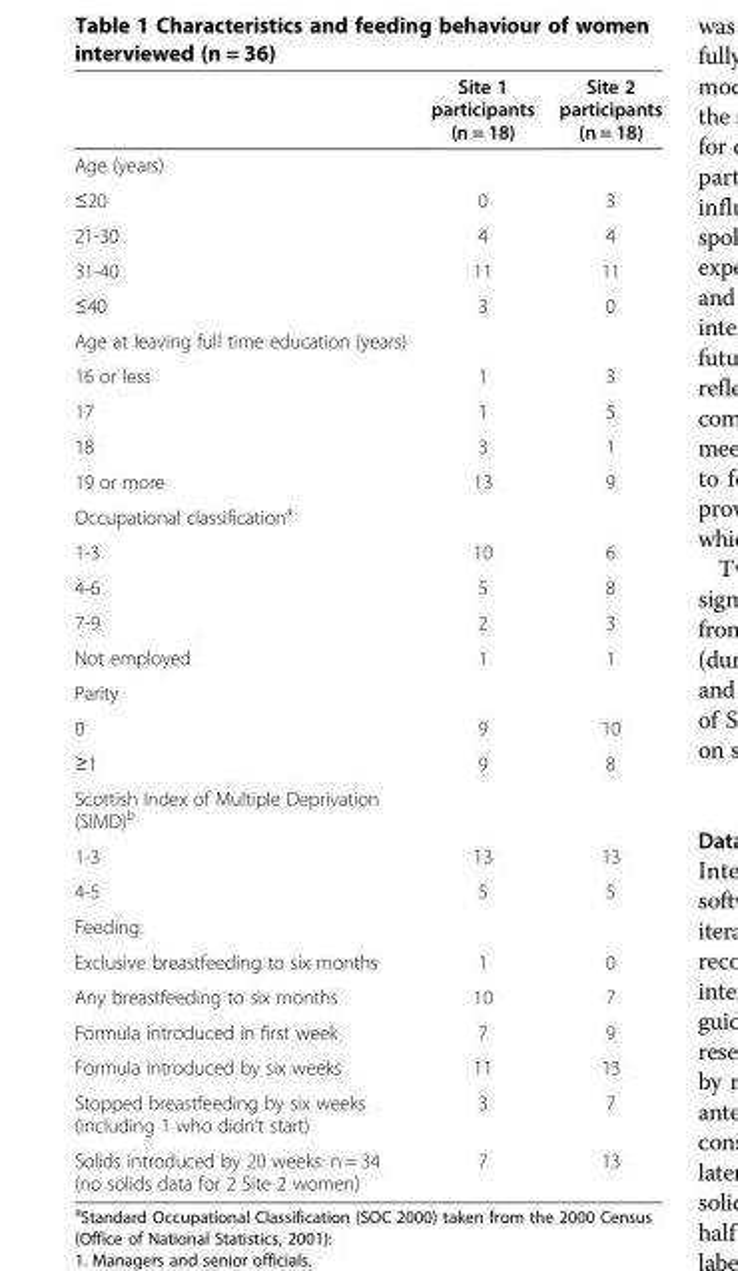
<table><thead><tr><td></td><td>Site 1 participants (n = 18)</td><td>Site 2 participants (n = 18)</td></tr></thead><tbody><tr><td colspan="3">Age (years)</td></tr><tr><td>≤20</td><td>0</td><td>3</td></tr><tr><td>21-30</td><td>4</td><td>4</td></tr><tr><td>31-40</td><td>11</td><td>11</td></tr><tr><td>≤40</td><td>3</td><td>0</td></tr><tr><td colspan="3">Age at leaving full time education (years)</td></tr><tr><td>16 or less</td><td>1</td><td>3</td></tr><tr><td>17</td><td>1</td><td>5</td></tr><tr><td>18</td><td>3</td><td>1</td></tr><tr><td>19 or more</td><td>13</td><td>9</td></tr><tr><td colspan="3">Occupational classification<sup>a</sup></td></tr><tr><td>1-3</td><td>10</td><td>6</td></tr><tr><td>4-6</td><td>5</td><td>8</td></tr><tr><td>7-9</td><td>2</td><td>3</td></tr><tr><td>Not employed</td><td>1</td><td>1</td></tr><tr><td colspan="3">Parity</td></tr><tr><td>0</td><td>9</td><td>10</td></tr><tr><td>≥1</td><td>9</td><td>8</td></tr><tr><td colspan="3">Scottish Index of Multiple Deprivation (SIMD)<sup>b</sup></td></tr><tr><td>1-3</td><td>13</td><td>13</td></tr><tr><td>4-5</td><td>5</td><td>5</td></tr><tr><td colspan="3">Feeding:</td></tr><tr><td>Exclusive breastfeeding to six months</td><td>1</td><td>0</td></tr><tr><td>Any breastfeeding to six months</td><td>10</td><td>7</td></tr><tr><td>Formula introduced in first week</td><td>7</td><td>9</td></tr><tr><td>Formula introduced by six weeks</td><td>11</td><td>13</td></tr><tr><td>Stopped breastfeeding by six weeks (including 1 who didn’t start)</td><td>3</td><td>7</td></tr><tr><td>Solids introduced by 20 weeks: n = 34 (no solids data for 2 Site 2 women)</td><td>7</td><td>13</td></tr></tbody></table>